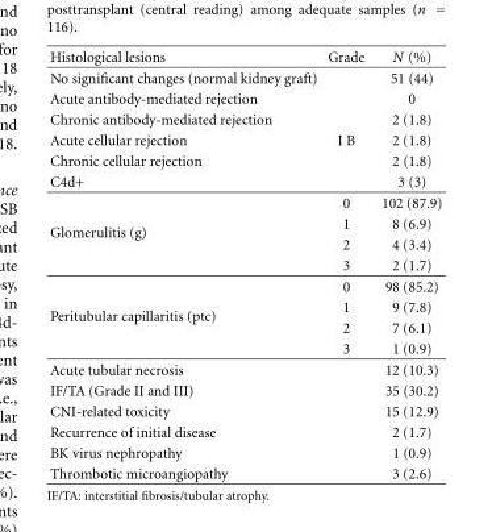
<table><thead><tr><td>Histological lesions</td><td>Grade</td><td>N (%)</td></tr></thead><tbody><tr><td>No significant changes (normal kidney graft)</td><td></td><td>51 (44)</td></tr><tr><td>Acute antibody-mediated rejection</td><td></td><td>0</td></tr><tr><td>Chronic antibody-mediated rejection</td><td></td><td>2 (1.8)</td></tr><tr><td>Acute cellular rejection</td><td>I B</td><td>2 (1.8)</td></tr><tr><td>Chronic cellular rejection</td><td></td><td>2 (1.8)</td></tr><tr><td>C4d+</td><td></td><td>3 (3)</td></tr><tr><td rowspan="4">Glomerulitis (g)</td><td>0</td><td>102 (87.9)</td></tr><tr><td>1</td><td>8 (6.9)</td></tr><tr><td>2</td><td>4 (3.4)</td></tr><tr><td>3</td><td>2 (1.7)</td></tr><tr><td rowspan="4">Peritubular capillaritis (ptc)</td><td>0</td><td>98 (85.2)</td></tr><tr><td>1</td><td>9 (7.8)</td></tr><tr><td>2</td><td>7 (6.1)</td></tr><tr><td>3</td><td>1 (0.9)</td></tr><tr><td>Acute tubular necrosis</td><td></td><td>12 (10.3)</td></tr><tr><td>IF/TA (Grade II and III)</td><td></td><td>35 (30.2)</td></tr><tr><td>CNI-related toxicity</td><td></td><td>15 (12.9)</td></tr><tr><td>Recurrence of initial disease</td><td></td><td>2 (1.7)</td></tr><tr><td>BK virus nephropathy</td><td></td><td>1 (0.9)</td></tr><tr><td>Thrombotic microangiopathy</td><td></td><td>3 (2.6)</td></tr></tbody></table>